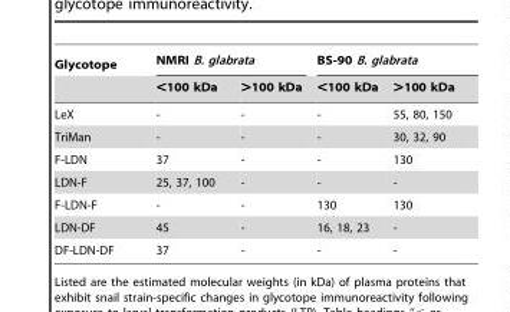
<table><thead><tr><td rowspan="2">Glycotope</td><td colspan="2">NMRI B. glabrata</td><td colspan="2">BS-90 B. glabrata</td></tr><tr><td>&lt;100 kDa</td><td>&gt;100 kDa</td><td>&lt;100 kDa</td><td>&gt;100 kDa</td></tr></thead><tbody><tr><td>LeX</td><td>-</td><td>-</td><td>-</td><td>55, 80, 150</td></tr><tr><td>TriMan</td><td>-</td><td>-</td><td>-</td><td>30, 32, 90</td></tr><tr><td>F-LDN</td><td>37</td><td>-</td><td>-</td><td>130</td></tr><tr><td>LDN-F</td><td>25, 37, 100</td><td>-</td><td>-</td><td>-</td></tr><tr><td>F-LDN-F</td><td>-</td><td>-</td><td>130</td><td>130</td></tr><tr><td>LDN-DF</td><td>45</td><td>-</td><td>16, 18, 23</td><td>-</td></tr><tr><td>DF-LDN-DF</td><td>37</td><td>-</td><td>-</td><td>-</td></tr></tbody></table>